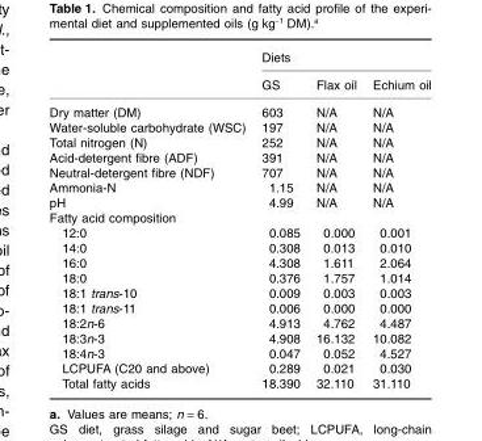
<table><thead><tr><td rowspan="2"></td><td colspan="3">Diets</td></tr><tr><td>GS</td><td>Flax oil</td><td>Echium oil</td></tr></thead><tbody><tr><td>Dry matter (DM)</td><td>603</td><td>N/A</td><td>N/A</td></tr><tr><td>Water-soluble carbohydrate (WSC)</td><td>197</td><td>N/A</td><td>N/A</td></tr><tr><td>Total nitrogen (N)</td><td>252</td><td>N/A</td><td>N/A</td></tr><tr><td>Acid-detergent fibre (ADF)</td><td>391</td><td>N/A</td><td>N/A</td></tr><tr><td>Neutral-detergent fibre (NDF)</td><td>707</td><td>N/A</td><td>N/A</td></tr><tr><td>Ammonia-N</td><td>1.15</td><td>N/A</td><td>N/A</td></tr><tr><td>pH</td><td>4.99</td><td>N/A</td><td>N/A</td></tr><tr><td colspan="4">Fatty acid composition</td></tr><tr><td>12:0</td><td>0.085</td><td>0.000</td><td>0.001</td></tr><tr><td>14:0</td><td>0.308</td><td>0.013</td><td>0.010</td></tr><tr><td>16:0</td><td>4.308</td><td>1.611</td><td>2.064</td></tr><tr><td>18:0</td><td>0.376</td><td>1.757</td><td>1.014</td></tr><tr><td>18:1 trans-10</td><td>0.009</td><td>0.003</td><td>0.003</td></tr><tr><td>18:1 trans-11</td><td>0.006</td><td>0.000</td><td>0.000</td></tr><tr><td>18:2n-6</td><td>4.913</td><td>4.762</td><td>4.487</td></tr><tr><td>18:3n-3</td><td>4.908</td><td>16.132</td><td>10.082</td></tr><tr><td>18:4n-3</td><td>0.047</td><td>0.052</td><td>4.527</td></tr><tr><td>LCPUFA (C20 and above)</td><td>0.289</td><td>0.021</td><td>0.030</td></tr><tr><td>Total fatty acids</td><td>18.390</td><td>32.110</td><td>31.110</td></tr></tbody></table>